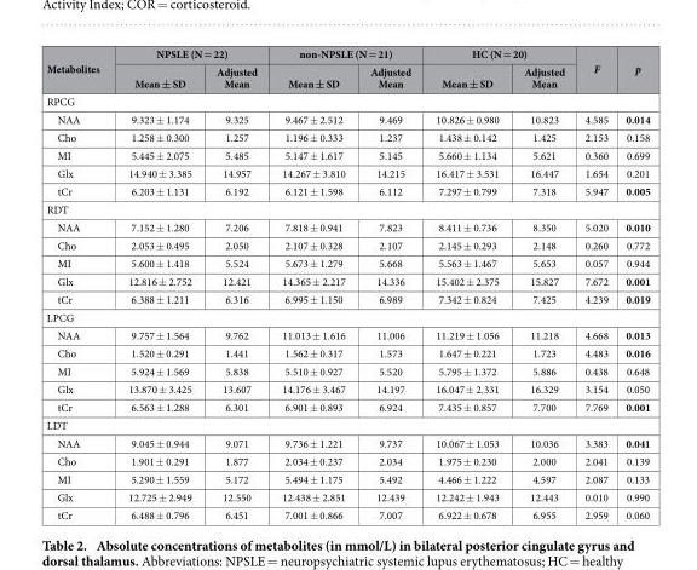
<table><thead><tr><td rowspan="2">Metabolites</td><td colspan="2">NPSLE (N = 22)</td><td colspan="2">non-NPSLE (N = 21)</td><td colspan="2">HC (N = 20)</td><td rowspan="2">F</td><td rowspan="2">p</td></tr><tr><td>Mean ± SD</td><td>Adjusted Mean</td><td>Mean ± SD</td><td>Adjusted Mean</td><td>Mean ± SD</td><td>Adjusted Mean</td></tr></thead><tbody><tr><td colspan="9">RPCG</td></tr><tr><td>NAA</td><td>9.323 ± 1.174</td><td>9.325</td><td>9.467 ± 2.512</td><td>9.469</td><td>10.826 ± 0.980</td><td>10.823</td><td>4.585</td><td>0.014</td></tr><tr><td>Cho</td><td>1.258 ± 0.300</td><td>1.257</td><td>1.196 ± 0.333</td><td>1.237</td><td>1.438 ± 0.142</td><td>1.425</td><td>2.153</td><td>0.158</td></tr><tr><td>MI</td><td>5.445 ± 2.075</td><td>5.485</td><td>5.147 ± 1.617</td><td>5.145</td><td>5.660 ± 1.134</td><td>5.621</td><td>0.360</td><td>0.699</td></tr><tr><td>Glx</td><td>14.940 ± 3.385</td><td>14.957</td><td>14.267 ± 3.810</td><td>14.215</td><td>16.417 ± 3.531</td><td>16.447</td><td>1.654</td><td>0.201</td></tr><tr><td>tCr</td><td>6.203 ± 1.131</td><td>6.192</td><td>6.121 ± 1.598</td><td>6.112</td><td>7.297 ± 0.799</td><td>7.318</td><td>5.947</td><td>0.005</td></tr><tr><td colspan="9">RDT</td></tr><tr><td>NAA</td><td>7.152 ± 1.280</td><td>7.206</td><td>7.818 ± 0.941</td><td>7.823</td><td>8.411 ± 0.736</td><td>8.350</td><td>5.020</td><td>0.010</td></tr><tr><td>Cho</td><td>2.053 ± 0.495</td><td>2.050</td><td>2.107 ± 0.328</td><td>2.107</td><td>2.145 ± 0.293</td><td>2.148</td><td>0.260</td><td>0.772</td></tr><tr><td>MI</td><td>5.600 ± 1.418</td><td>5.524</td><td>5.673 ± 1.279</td><td>5.668</td><td>5.563 ± 1.467</td><td>5.653</td><td>0.057</td><td>0.944</td></tr><tr><td>Glx</td><td>12.816 ± 2.752</td><td>12.421</td><td>14.365 ± 2.217</td><td>14.336</td><td>15.402 ± 2.375</td><td>15.827</td><td>7.672</td><td>0.001</td></tr><tr><td>tCr</td><td>6.388 ± 1.211</td><td>6.316</td><td>6.995 ± 1.150</td><td>6.989</td><td>7.342 ± 0.824</td><td>7.425</td><td>4.239</td><td>0.019</td></tr><tr><td colspan="9">LPCG</td></tr><tr><td>NAA</td><td>9.757 ± 1.564</td><td>9.762</td><td>11.013 ± 1.616</td><td>11.006</td><td>11.219 ± 1.056</td><td>11.218</td><td>4.668</td><td>0.013</td></tr><tr><td>Cho</td><td>1.520 ± 0.291</td><td>1.441</td><td>1.562 ± 0.317</td><td>1.573</td><td>1.647 ± 0.221</td><td>1.723</td><td>4.483</td><td>0.016</td></tr><tr><td>MI</td><td>5.924 ± 1.569</td><td>5.838</td><td>5.510 ± 0.927</td><td>5.520</td><td>5.795 ± 1.372</td><td>5.886</td><td>0.438</td><td>0.648</td></tr><tr><td>Glx</td><td>13.870 ± 3.425</td><td>13.607</td><td>14.176 ± 3.467</td><td>14.197</td><td>16.047 ± 2.331</td><td>16.329</td><td>3.154</td><td>0.050</td></tr><tr><td>tCr</td><td>6.563 ± 1.288</td><td>6.301</td><td>6.901 ± 0.893</td><td>6.924</td><td>7.435 ± 0.857</td><td>7.700</td><td>7.769</td><td>0.001</td></tr><tr><td colspan="9">LDT</td></tr><tr><td>NAA</td><td>9.045 ± 0.944</td><td>9.071</td><td>9.736 ± 1.221</td><td>9.737</td><td>10.067 ± 1.053</td><td>10.036</td><td>3.383</td><td>0.041</td></tr><tr><td>Cho</td><td>1.901 ± 0.291</td><td>1.877</td><td>2.034 ± 0.237</td><td>2.034</td><td>1.975 ± 0.230</td><td>2.000</td><td>2.041</td><td>0.139</td></tr><tr><td>MI</td><td>5.290 ± 1.559</td><td>5.172</td><td>5.494 ± 1.175</td><td>5.492</td><td>4.466 ± 1.222</td><td>4.597</td><td>2.087</td><td>0.133</td></tr><tr><td>Glx</td><td>12.725 ± 2.949</td><td>12.550</td><td>12.438 ± 2.851</td><td>12.439</td><td>12.242 ± 1.943</td><td>12.443</td><td>0.010</td><td>0.990</td></tr><tr><td>tCr</td><td>6.488 ± 0.796</td><td>6.451</td><td>7.001 ± 0.866</td><td>7.007</td><td>6.922 ± 0.678</td><td>6.955</td><td>2.959</td><td>0.060</td></tr></tbody></table>